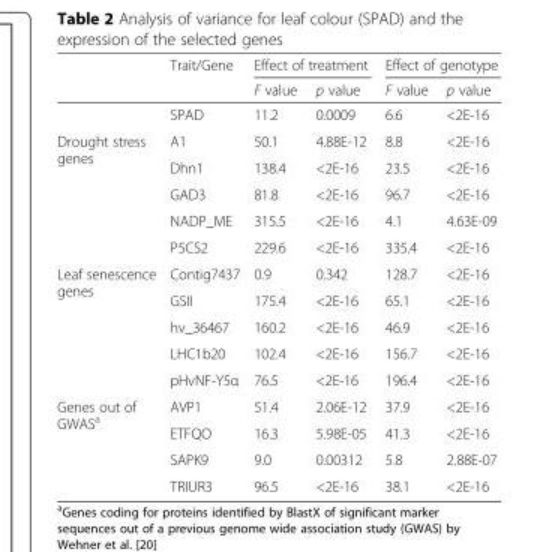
<table><thead><tr><td rowspan="2"></td><td rowspan="2">Trait/Gene</td><td colspan="2">Effect of treatment</td><td colspan="2">Effect of genotype</td></tr><tr><td>F value</td><td>p value</td><td>F value</td><td>p value</td></tr></thead><tbody><tr><td></td><td>SPAD</td><td>11.2</td><td>0.0009</td><td>6.6</td><td>&lt;2E-16</td></tr><tr><td rowspan="5">Drought stress genes</td><td>A1</td><td>50.1</td><td>4.88E-12</td><td>8.8</td><td>&lt;2E-16</td></tr><tr><td>Dhn1</td><td>138.4</td><td>&lt;2E-16</td><td>23.5</td><td>&lt;2E-16</td></tr><tr><td>GAD3</td><td>81.8</td><td>&lt;2E-16</td><td>96.7</td><td>&lt;2E-16</td></tr><tr><td>NADP_ME</td><td>315.5</td><td>&lt;2E-16</td><td>4.1</td><td>4.63E-09</td></tr><tr><td>P5CS2</td><td>229.6</td><td>&lt;2E-16</td><td>335.4</td><td>&lt;2E-16</td></tr><tr><td rowspan="5">Leaf senescence genes</td><td>Contig7437</td><td>0.9</td><td>0.342</td><td>128.7</td><td>&lt;2E-16</td></tr><tr><td>GSII</td><td>175.4</td><td>&lt;2E-16</td><td>65.1</td><td>&lt;2E-16</td></tr><tr><td>hv_36467</td><td>160.2</td><td>&lt;2E-16</td><td>46.9</td><td>&lt;2E-16</td></tr><tr><td>LHC1b20</td><td>102.4</td><td>&lt;2E-16</td><td>156.7</td><td>&lt;2E-16</td></tr><tr><td>pHvNF-Y5α</td><td>76.5</td><td>&lt;2E-16</td><td>196.4</td><td>&lt;2E-16</td></tr><tr><td rowspan="4">Genes out of GWAS<sup>a</sup></td><td>AVP1</td><td>51.4</td><td>2.06E-12</td><td>37.9</td><td>&lt;2E-16</td></tr><tr><td>ETFQO</td><td>16.3</td><td>5.98E-05</td><td>41.3</td><td>&lt;2E-16</td></tr><tr><td>SAPK9</td><td>9.0</td><td>0.00312</td><td>5.8</td><td>2.88E-07</td></tr><tr><td>TRIUR3</td><td>96.5</td><td>&lt;2E-16</td><td>38.1</td><td>&lt;2E-16</td></tr></tbody></table>